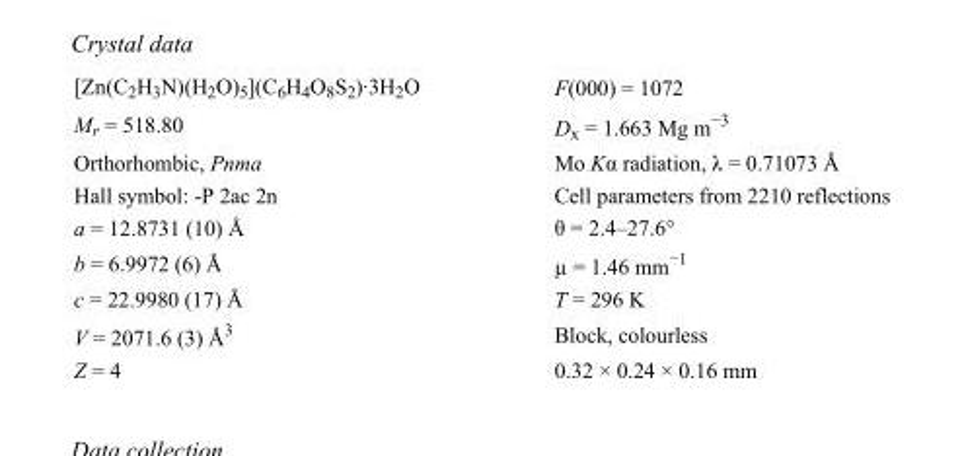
<table><tbody><tr><td>[Zn(C<sub>2</sub>H<sub>3</sub>N)(H<sub>2</sub>O)<sub>5</sub>](C<sub>6</sub>H<sub>4</sub>O<sub>8</sub>S<sub>2</sub>)·3H<sub>2</sub>O</td><td>F(000) = 1072</td></tr><tr><td>M<sub>r</sub> = 518.80</td><td>D<sub>x</sub> = 1.663 Mg m<sup>−3</sup></td></tr><tr><td>Orthorhombic, Pnma</td><td>Mo Kα radiation, λ = 0.71073 Å</td></tr><tr><td>Hall symbol: -P 2ac 2n</td><td>Cell parameters from 2210 reflections</td></tr><tr><td>a = 12.8731 (10) Å</td><td>θ = 2.4–27.6°</td></tr><tr><td>b = 6.9972 (6) Å</td><td>µ = 1.46 mm<sup>−1</sup></td></tr><tr><td>c = 22.9980 (17) Å</td><td>T = 296 K</td></tr><tr><td>V = 2071.6 (3) Å<sup>3</sup></td><td>Block, colourless</td></tr><tr><td>Z = 4</td><td>0.32 × 0.24 × 0.16 mm</td></tr></tbody></table>